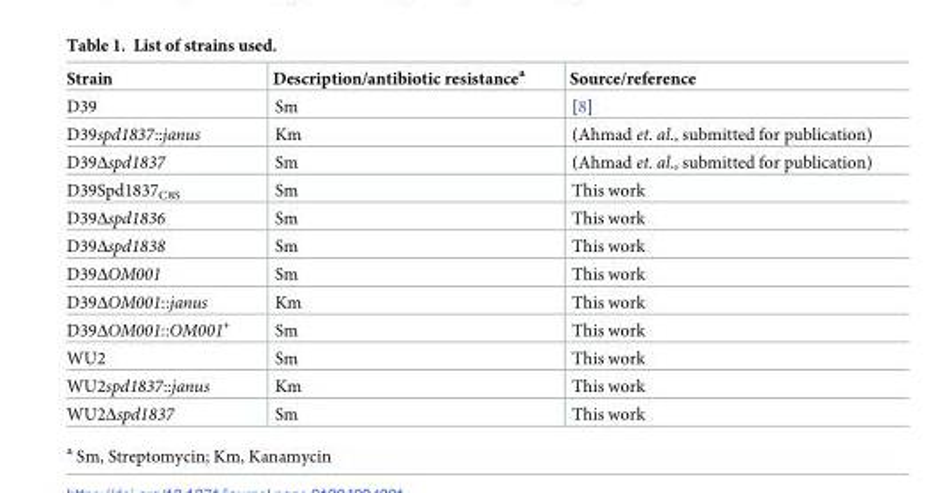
<table><thead><tr><td>Strain</td><td>Description/antibiotic resistance<sup>a</sup></td><td>Source/reference</td></tr></thead><tbody><tr><td>D39</td><td>Sm</td><td>[8]</td></tr><tr><td>D39spd1837::janus</td><td>Km</td><td>(Ahmad et. al., submitted for publication)</td></tr><tr><td>D39Δspd1837</td><td>Sm</td><td>(Ahmad et. al., submitted for publication)</td></tr><tr><td>D39Spd1837<sub>C8S</sub></td><td>Sm</td><td>This work</td></tr><tr><td>D39Δspd1836</td><td>Sm</td><td>This work</td></tr><tr><td>D39Δspd1838</td><td>Sm</td><td>This work</td></tr><tr><td>D39ΔOM001</td><td>Sm</td><td>This work</td></tr><tr><td>D39ΔOM001::janus</td><td>Km</td><td>This work</td></tr><tr><td>D39ΔOM001::OM001<sup>+</sup></td><td>Sm</td><td>This work</td></tr><tr><td>WU2</td><td>Sm</td><td>This work</td></tr><tr><td>WU2spd1837::janus</td><td>Km</td><td>This work</td></tr><tr><td>WU2Δspd1837</td><td>Sm</td><td>This work</td></tr></tbody></table>